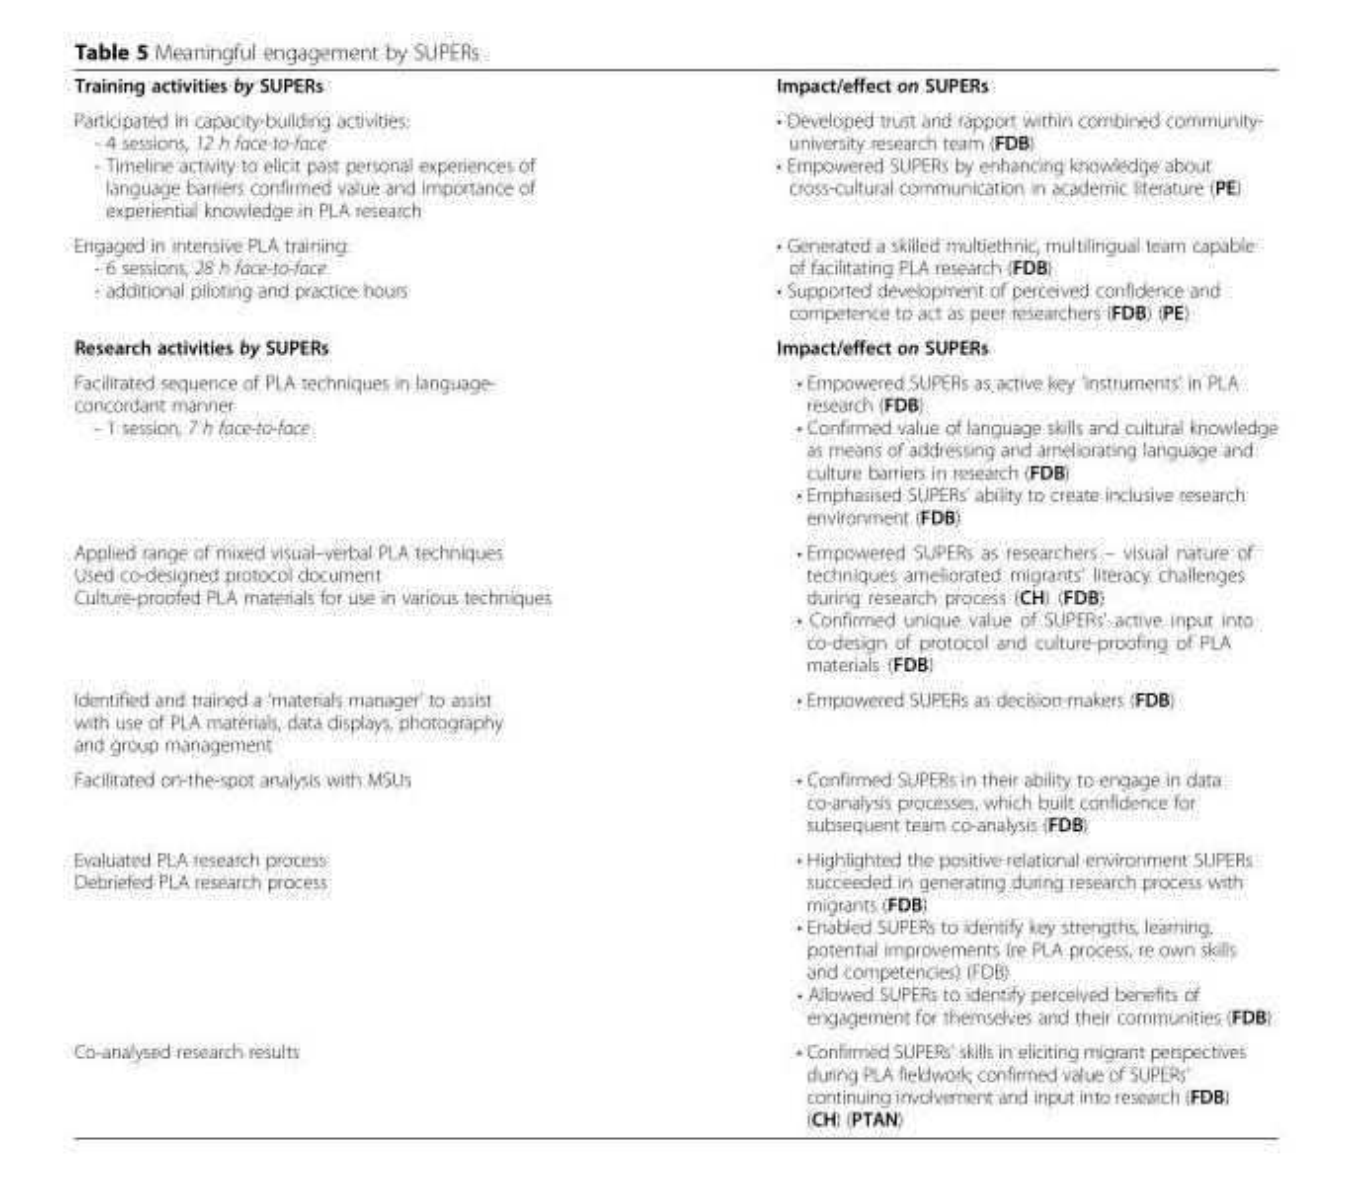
<table><tbody><tr><td>Training activities by SUPERs</td><td>Impact/effect on SUPERs</td></tr><tr><td>Participated in capacity-building activities: - 4 sessions, 12 h face-to-face - Timeline activity to elicit past personal experiences of language barriers confirmed value and importance of experiential knowledge in PLA research</td><td>• Developed trust and rapport within combined community- university research team (FDB) • Empowered SUPERs by enhancing knowledge about cross-cultural communication in academic literature (PE)</td></tr><tr><td>Engaged in intensive PLA training: - 6 sessions, 28 h face-to-face - additional piloting and practice hours</td><td>• Generated a skilled multiethnic, multilingual team capable of facilitating PLA research (FDB) • Supported development of perceived confidence and competence to act as peer researchers (FDB) (PE)</td></tr><tr><td>Research activities by SUPERs</td><td>Impact/effect on SUPERs</td></tr><tr><td>Facilitated sequence of PLA techniques in language- concordant manner - 1 session, 7 h face-to-face</td><td>• Empowered SUPERs as active key ‘instruments’ in PLA research (FDB) • Confirmed value of language skills and cultural knowledge as means of addressing and ameliorating language and culture barriers in research (FDB) • Emphasised SUPERs’ ability to create inclusive research environment (FDB)</td></tr><tr><td>Applied range of mixed visual–verbal PLA techniques Used co-designed protocol document Culture-proofed PLA materials for use in various techniques</td><td>• Empowered SUPERs as researchers – visual nature of techniques ameliorated migrants’ literacy challenges during research process (CH) (FDB) • Confirmed unique value of SUPERs’ active input into co-design of protocol and culture-proofing of PLA materials (FDB)</td></tr><tr><td>Identified and trained a ‘materials manager’ to assist with use of PLA materials, data displays, photography and group management</td><td>• Empowered SUPERs as decision-makers (FDB)</td></tr><tr><td>Facilitated on-the-spot analysis with MSUs</td><td>• Confirmed SUPERs in their ability to engage in data co-analysis processes, which built confidence for subsequent team co-analysis (FDB)</td></tr><tr><td>Evaluated PLA research process Debriefed PLA research process</td><td>• Highlighted the positive relational environment SUPERs succeeded in generating during research process with migrants (FDB) • Enabled SUPERs to identify key strengths, learning, potential improvements (re PLA process, re own skills and competencies) (FDB) • Allowed SUPERs to identify perceived benefits of engagement for themselves and their communities (FDB)</td></tr><tr><td>Co-analysed research results</td><td>• Confirmed SUPERs’ skills in eliciting migrant perspectives during PLA fieldwork; confirmed value of SUPERs’ continuing involvement and input into research (FDB)</td></tr></tbody></table>